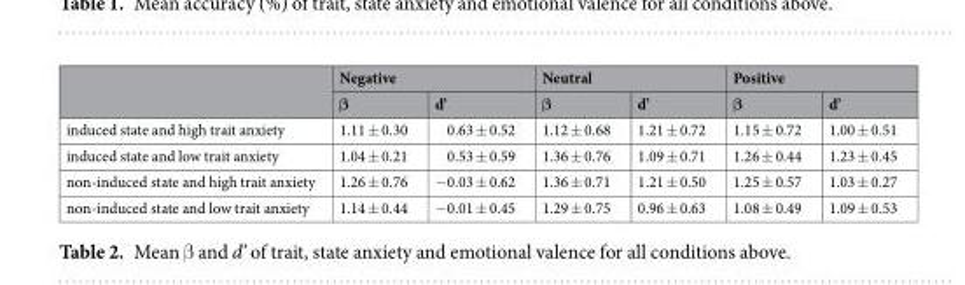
<table><thead><tr><td rowspan="2"></td><td colspan="2">Negative</td><td colspan="2">Neutral</td><td colspan="2">Positive</td></tr><tr><td>β</td><td>d’</td><td>β</td><td>d’</td><td>β</td><td>d’</td></tr></thead><tbody><tr><td>induced state and high trait anxiety</td><td>1.11 ± 0.30</td><td>0.63 ± 0.52</td><td>1.12 ± 0.68</td><td>1.21 ± 0.72</td><td>1.15 ± 0.72</td><td>1.00 ± 0.51</td></tr><tr><td>induced state and low trait anxiety</td><td>1.04 ± 0.21</td><td>0.53 ± 0.59</td><td>1.36 ± 0.76</td><td>1.09 ± 0.71</td><td>1.26 ± 0.44</td><td>1.23 ± 0.45</td></tr><tr><td>non-induced state and high trait anxiety</td><td>1.26 ± 0.76</td><td>−0.03 ± 0.62</td><td>1.36 ± 0.71</td><td>1.21 ± 0.50</td><td>1.25 ± 0.57</td><td>1.03 ± 0.27</td></tr><tr><td>non-induced state and low trait anxiety</td><td>1.14 ± 0.44</td><td>−0.01 ± 0.45</td><td>1.29 ± 0.75</td><td>0.96 ± 0.63</td><td>1.08 ± 0.49</td><td>1.09 ± 0.53</td></tr></tbody></table>